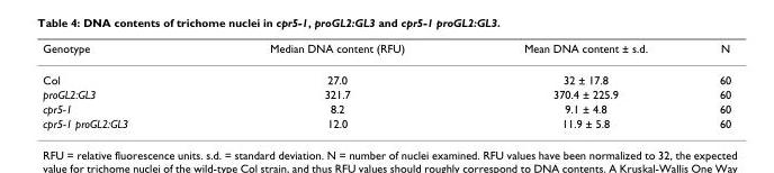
<table><thead><tr><td>Genotype</td><td>Median DNA content (RFU)</td><td>Mean DNA content ± s.d.</td><td>N</td></tr></thead><tbody><tr><td>Col</td><td>27.0</td><td>32 ± 17.8</td><td>60</td></tr><tr><td>proGL2:GL3</td><td>321.7</td><td>370.4 ± 225.9</td><td>60</td></tr><tr><td>cpr5-1</td><td>8.2</td><td>9.1 ± 4.8</td><td>60</td></tr><tr><td>cpr5-1 proGL2:GL3</td><td>12.0</td><td>11.9 ± 5.8</td><td>60</td></tr></tbody></table>